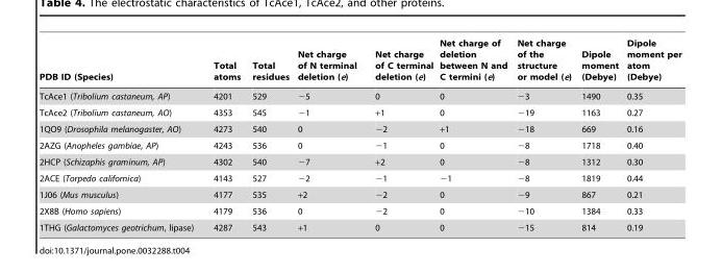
<table><thead><tr><td>PDB ID (Species)</td><td>Total atoms</td><td>Total residues</td><td>Net charge of N terminal deletion (e)</td><td>Net charge of C terminal deletion (e)</td><td>Net charge of deletion between N and C termini (e)</td><td>Net charge of the structure or model (e)</td><td>Dipole moment (Debye)</td><td>Dipole moment per atom (Debye)</td></tr></thead><tbody><tr><td>TcAce1 (Tribolium castaneum, AP)</td><td>4201</td><td>529</td><td>−5</td><td>0</td><td>0</td><td>−3</td><td>1490</td><td>0.35</td></tr><tr><td>TcAce2 (Tribolium castaneum, AO)</td><td>4353</td><td>545</td><td>−1</td><td>+1</td><td>0</td><td>−19</td><td>1163</td><td>0.27</td></tr><tr><td>1QO9 (Drosophila melanogaster, AO)</td><td>4273</td><td>540</td><td>0</td><td>−2</td><td>+1</td><td>−18</td><td>669</td><td>0.16</td></tr><tr><td>2AZG (Anopheles gambiae, AP)</td><td>4243</td><td>536</td><td>0</td><td>−1</td><td>0</td><td>−8</td><td>1718</td><td>0.40</td></tr><tr><td>2HCP (Schizaphis graminum, AP)</td><td>4302</td><td>540</td><td>−7</td><td>+2</td><td>0</td><td>−8</td><td>1312</td><td>0.30</td></tr><tr><td>2ACE (Torpedo californica)</td><td>4143</td><td>527</td><td>−2</td><td>−1</td><td>−1</td><td>−8</td><td>1819</td><td>0.44</td></tr><tr><td>1J06 (Mus musculus)</td><td>4177</td><td>535</td><td>+2</td><td>−2</td><td>0</td><td>−9</td><td>867</td><td>0.21</td></tr><tr><td>2X8B (Homo sapiens)</td><td>4179</td><td>536</td><td>0</td><td>−2</td><td>0</td><td>−10</td><td>1384</td><td>0.33</td></tr><tr><td>1THG (Galactomyces geotrichum, lipase)</td><td>4287</td><td>543</td><td>+1</td><td>0</td><td>0</td><td>−15</td><td>814</td><td>0.19</td></tr></tbody></table>